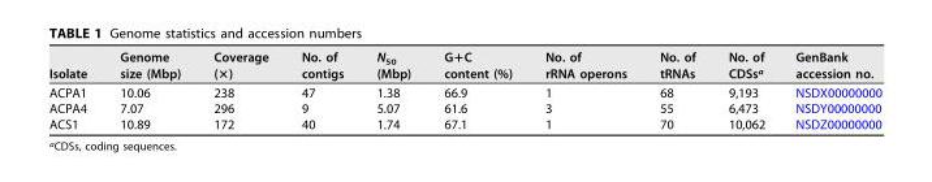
<table><thead><tr><td>Isolate</td><td>Genome size (Mbp)</td><td>Coverage (×)</td><td>No. of contigs</td><td>N<sub>50</sub> (Mbp)</td><td>G+C content (%)</td><td>No. of rRNA operons</td><td>No. of tRNAs</td><td>No. of CDSs<sup>a</sup></td><td>GenBank accession no.</td></tr></thead><tbody><tr><td>ACPA1</td><td>10.06</td><td>238</td><td>47</td><td>1.38</td><td>66.9</td><td>1</td><td>68</td><td>9,193</td><td>NSDX00000000</td></tr><tr><td>ACPA4</td><td>7.07</td><td>296</td><td>9</td><td>5.07</td><td>61.6</td><td>3</td><td>55</td><td>6,473</td><td>NSDY00000000</td></tr><tr><td>ACS1</td><td>10.89</td><td>172</td><td>40</td><td>1.74</td><td>67.1</td><td>1</td><td>70</td><td>10,062</td><td>NSDZ00000000</td></tr></tbody></table>